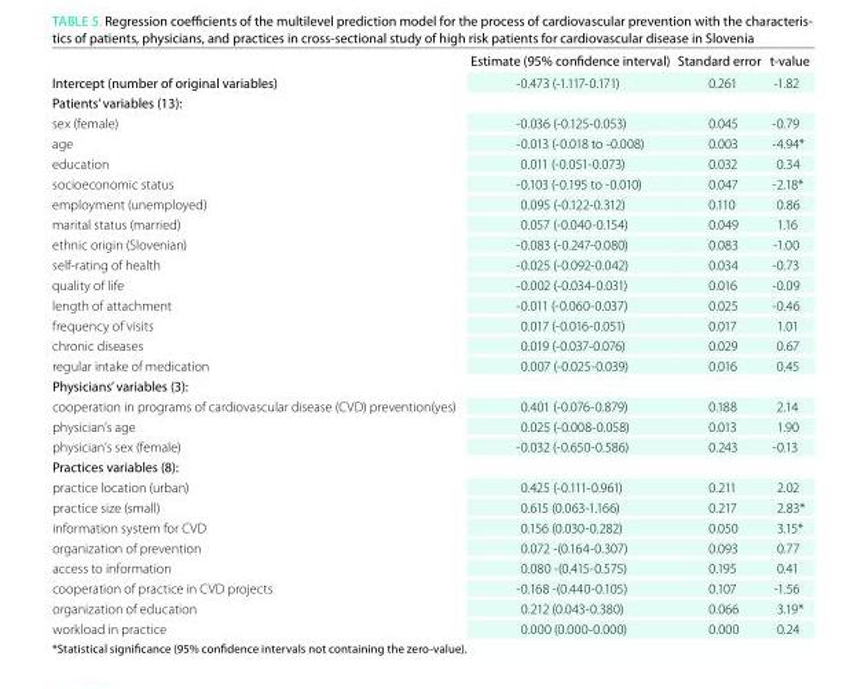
<table><thead><tr><td></td><td>estimate (95% confidence interval)</td><td>standard error</td><td>t-value</td></tr></thead><tbody><tr><td>intercept (number of original variables)</td><td>-0.473 (-1.117-0.171)</td><td>0.261</td><td>-1.82</td></tr><tr><td colspan="4">Patients’ variables (13):</td></tr><tr><td>sex (female)</td><td>-0.036 (-0.125-0.053)</td><td>0.045</td><td>-0.79</td></tr><tr><td>age</td><td>-0.013 (-0.018 to -0.008)</td><td>0.003</td><td>-4.94*</td></tr><tr><td>education</td><td>0.011 (-0.051-0.073)</td><td>0.032</td><td>0.34</td></tr><tr><td>socioeconomic status</td><td>-0.103 (-0.195 to -0.010)</td><td>0.047</td><td>- 2.18*</td></tr><tr><td>employment (unemployed)</td><td>0.095 (-0.122-0.312)</td><td>0.110</td><td>0.86</td></tr><tr><td>marital status (married)</td><td>0.057 (-0.040-0.154)</td><td>0.049</td><td>1.16</td></tr><tr><td>ethnic origin (Slovenian)</td><td>-0.083 (-0.247-0.080)</td><td>0.083</td><td>-1.00</td></tr><tr><td>self-rating of health</td><td>-0.025 (-0.092-0.042)</td><td>0.034</td><td>-0.73</td></tr><tr><td>quality of life</td><td>-0.002 (-0.034-0.031)</td><td>0.016</td><td>-0.09</td></tr><tr><td>length of attachment</td><td>-0.011 (-0.060-0.037)</td><td>0.025</td><td>-0.46</td></tr><tr><td>frequency of visits</td><td>0.017 (-0.016-0.051)</td><td>0.017</td><td>1.01</td></tr><tr><td>chronic diseases</td><td>0.019 (-0.037-0.076)</td><td>0.029</td><td>0.67</td></tr><tr><td>regular intake of medication</td><td>0.007 (-0.025-0.039)</td><td>0.016</td><td>0.45</td></tr><tr><td colspan="4">Physicians’ variables (3):</td></tr><tr><td>cooperation in programs of cardiovascular disease (CVD) prevention(yes)</td><td>0.401 (-0.076-0.879)</td><td>0.188</td><td>2.14</td></tr><tr><td>physician’s age</td><td>0.025 (-0.008-0.058)</td><td>0.013</td><td>1.90</td></tr><tr><td>physician’s sex (female)</td><td>-0.032 (-0.650-0.586)</td><td>0.243</td><td>-0.13</td></tr><tr><td colspan="4">Practices variables (8):</td></tr><tr><td>practice location (urban)</td><td>0.425 (-0.111-0.961)</td><td>0.211</td><td>2.02</td></tr><tr><td>practice size (small)</td><td>0.615 (0.063-1.166)</td><td>0.217</td><td>2.83*</td></tr><tr><td>information system for CVD</td><td>0.156 (0.030-0.282)</td><td>0.050</td><td>3.15*</td></tr><tr><td>organization of prevention</td><td>0.072 -(0.164-0.307)</td><td>0.093</td><td>0.77</td></tr><tr><td>access to information</td><td>0.080 -(0.415-0.575)</td><td>0.195</td><td>0.41</td></tr><tr><td>cooperation of practice in CVD projects</td><td>-0.168 -(0.440-0.105)</td><td>0.107</td><td>-1.56</td></tr><tr><td>organization of education</td><td>0.212 (0.043-0.380)</td><td>0.066</td><td>3.19*</td></tr><tr><td>workload in practice</td><td>0.000 (0.000-0.000)</td><td>0.000</td><td>0.24</td></tr></tbody></table>